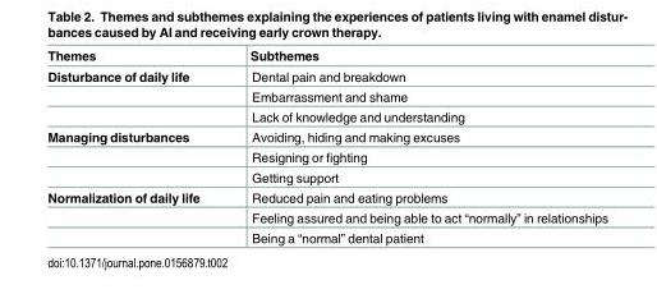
<table><thead><tr><td>Themes</td><td>Subthemes</td></tr></thead><tbody><tr><td rowspan="3">Disturbance of daily life</td><td>Dental pain and breakdown</td></tr><tr><td>Embarrassment and shame</td></tr><tr><td>Lack of knowledge and understanding</td></tr><tr><td rowspan="3">Managing disturbances</td><td>Avoiding, hiding and making excuses</td></tr><tr><td>Resigning or fighting</td></tr><tr><td>Getting support</td></tr><tr><td rowspan="3">Normalization of daily life</td><td>Reduced pain and eating problems</td></tr><tr><td>Feeling assured and being able to act “normally” in relationships</td></tr><tr><td>Being a “normal” dental patient</td></tr></tbody></table>